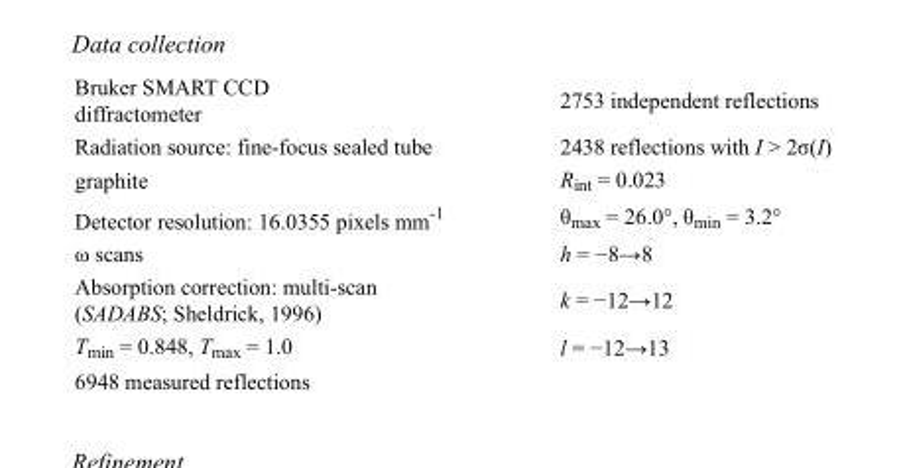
<table><tbody><tr><td>Bruker SMART CCD diffractometer</td><td>2753 independent reflections</td></tr><tr><td>Radiation source: fine-focus sealed tube</td><td>2438 reflections with I &gt; 2σ(I)</td></tr><tr><td>graphite</td><td>R<sub>int</sub> = 0.023</td></tr><tr><td>Detector resolution: 16.0355 pixels mm<sup>-1</sup></td><td>θ<sub>max</sub> = 26.0°, θ<sub>min</sub> = 3.2°</td></tr><tr><td>ω scans</td><td>h = −8→8</td></tr><tr><td>Absorption correction: multi-scan (SADABS; Sheldrick, 1996)</td><td>k = −12→12</td></tr><tr><td>T<sub>min</sub> = 0.848, T<sub>max</sub> = 1.0</td><td>l = −12→13</td></tr><tr><td>6948 measured reflections</td><td></td></tr></tbody></table>